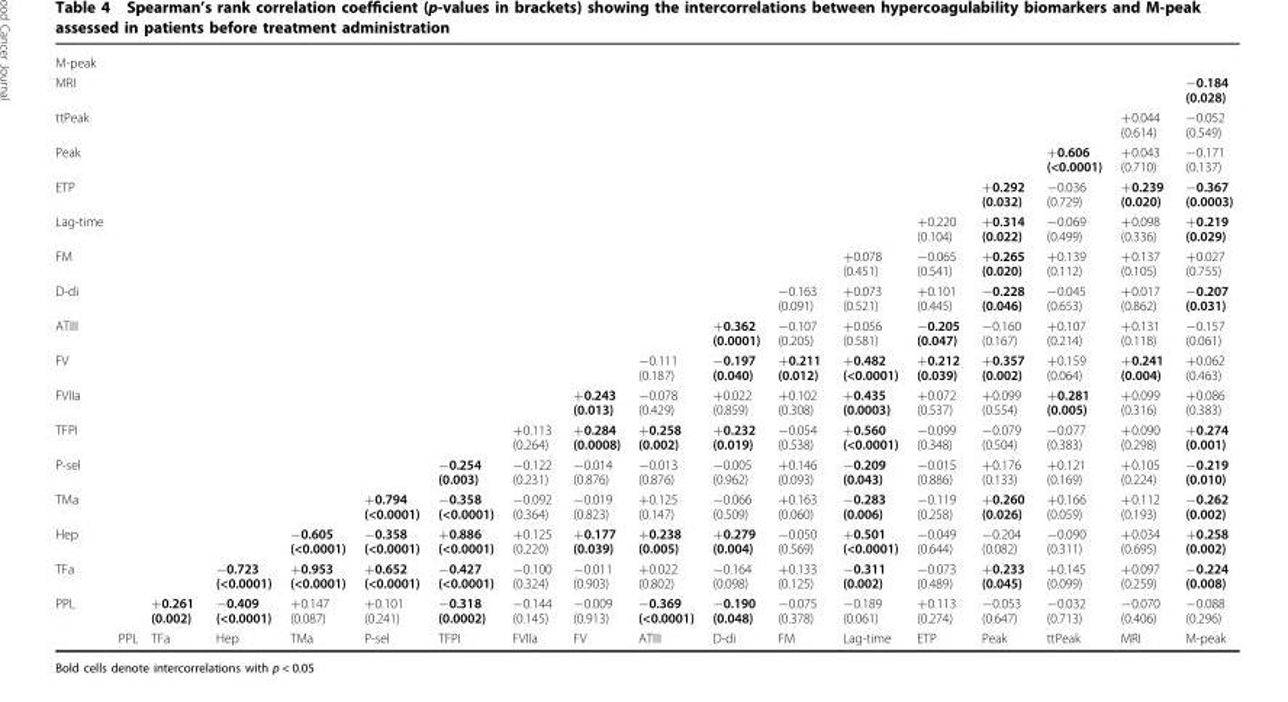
<table><tbody><tr><td colspan="18">M-peak</td></tr><tr><td>MRI</td><td></td><td></td><td></td><td></td><td></td><td></td><td></td><td></td><td></td><td></td><td></td><td></td><td></td><td></td><td></td><td></td><td>−0.184 (0.028)</td></tr><tr><td>ttPeak</td><td></td><td></td><td></td><td></td><td></td><td></td><td></td><td></td><td></td><td></td><td></td><td></td><td></td><td></td><td></td><td>+0.044 (0.614)</td><td>−0.052 (0.549)</td></tr><tr><td>Peak</td><td></td><td></td><td></td><td></td><td></td><td></td><td></td><td></td><td></td><td></td><td></td><td></td><td></td><td></td><td>+0.606 (&lt;0.0001)</td><td>+0.043 (0.710)</td><td>−0.171 (0.137)</td></tr><tr><td>ETP</td><td></td><td></td><td></td><td></td><td></td><td></td><td></td><td></td><td></td><td></td><td></td><td></td><td></td><td>+0.292 (0.032)</td><td>−0.036 (0.729)</td><td>+0.239 (0.020)</td><td>−0.367 (0.0003)</td></tr><tr><td>Lag-time</td><td></td><td></td><td></td><td></td><td></td><td></td><td></td><td></td><td></td><td></td><td></td><td></td><td>+0.220 (0.104)</td><td>+0.314 (0.022)</td><td>−0.069 (0.499)</td><td>+0.098 (0.336)</td><td>+0.219 (0.029)</td></tr><tr><td>FM</td><td></td><td></td><td></td><td></td><td></td><td></td><td></td><td></td><td></td><td></td><td></td><td>+0.078 (0.451)</td><td>−0.065 (0.541)</td><td>+0.265 (0.020)</td><td>+0.139 (0.112)</td><td>+0.137 (0.105)</td><td>+0.027 (0.755)</td></tr><tr><td>D-di</td><td></td><td></td><td></td><td></td><td></td><td></td><td></td><td></td><td></td><td></td><td>−0.163 (0.091)</td><td>+0.073 (0.521)</td><td>+0.101 (0.445)</td><td>−0.228 (0.046)</td><td>−0.045 (0.653)</td><td>+0.017 (0.862)</td><td>−0.207 (0.031)</td></tr><tr><td>ATIII</td><td></td><td></td><td></td><td></td><td></td><td></td><td></td><td></td><td></td><td>+0.362 (0.0001)</td><td>−0.107 (0.205)</td><td>+0.056 (0.581)</td><td>−0.205 (0.047)</td><td>−0.160 (0.167)</td><td>+0.107 (0.214)</td><td>+0.131 (0.118)</td><td>−0.157 (0.061)</td></tr><tr><td>FV</td><td></td><td></td><td></td><td></td><td></td><td></td><td></td><td></td><td>−0.111 (0.187)</td><td>−0.197 (0.040)</td><td>+0.211 (0.012)</td><td>+0.482 (&lt;0.0001)</td><td>+0.212 (0.039)</td><td>+0.357 (0.002)</td><td>+0.159 (0.064)</td><td>+0.241 (0.004)</td><td>+0.062 (0.463)</td></tr><tr><td>FVIIa</td><td></td><td></td><td></td><td></td><td></td><td></td><td></td><td>+0.243 (0.013)</td><td>−0.078 (0.429)</td><td>+0.022 (0.859)</td><td>+0.102 (0.308)</td><td>+0.435 (0.0003)</td><td>+0.072 (0.537)</td><td>+0.099 (0.554)</td><td>+0.281 (0.005)</td><td>+0.099 (0.316)</td><td>+0.086 (0.383)</td></tr><tr><td>TFPI</td><td></td><td></td><td></td><td></td><td></td><td></td><td>+0.113 (0.264)</td><td>+0.284 (0.0008)</td><td>+0.258 (0.002)</td><td>+0.232 (0.019)</td><td>−0.054 (0.538)</td><td>+0.560 (&lt;0.0001)</td><td>−0.099 (0.348)</td><td>−0.079 (0.504)</td><td>−0.077 (0.383)</td><td>+0.090 (0.298)</td><td>+0.274 (0.001)</td></tr><tr><td>P-sel</td><td></td><td></td><td></td><td></td><td></td><td>−0.254 (0.003)</td><td>−0.122 (0.231)</td><td>−0.014 (0.876)</td><td>−0.013 (0.876)</td><td>−0.005 (0.962)</td><td>+0.146 (0.093)</td><td>−0.209 (0.043)</td><td>−0.015 (0.886)</td><td>+0.176 (0.133)</td><td>+0.121 (0.169)</td><td>+0.105 (0.224)</td><td>−0.219 (0.010)</td></tr><tr><td>TMa</td><td></td><td></td><td></td><td></td><td>+0.794 (&lt;0.0001)</td><td>−0.358 (&lt;0.0001)</td><td>−0.092 (0.364)</td><td>−0.019 (0.823)</td><td>+0.125 (0.147)</td><td>−0.066 (0.509)</td><td>+0.163 (0.060)</td><td>−0.283 (0.006)</td><td>−0.119 (0.258)</td><td>+0.260 (0.026)</td><td>+0.166 (0.059)</td><td>+0.112 (0.193)</td><td>−0.262 (0.002)</td></tr><tr><td>Hep</td><td></td><td></td><td></td><td>−0.605 (&lt;0.0001)</td><td>−0.358 (&lt;0.0001)</td><td>+0.886 (&lt;0.0001)</td><td>+0.125 (0.220)</td><td>+0.177 (0.039)</td><td>+0.238 (0.005)</td><td>+0.279 (0.004)</td><td>−0.050 (0.569)</td><td>+0.501 (&lt;0.0001)</td><td>−0.049 (0.644)</td><td>−0.204 (0.082)</td><td>−0.090 (0.311)</td><td>+0.034 (0.695)</td><td>+0.258 (0.002)</td></tr><tr><td>TFa</td><td></td><td></td><td>−0.723 (&lt;0.0001)</td><td>+0.953 (&lt;0.0001)</td><td>+0.652 (&lt;0.0001)</td><td>−0.427 (&lt;0.0001)</td><td>−0.100 (0.324)</td><td>−0.011 (0.903)</td><td>+0.022 (0.802)</td><td>−0.164 (0.098)</td><td>+0.133 (0.125)</td><td>−0.311 (0.002)</td><td>−0.073 (0.489)</td><td>+0.233 (0.045)</td><td>+0.145 (0.099)</td><td>+0.097 (0.259)</td><td>−0.224 (0.008)</td></tr><tr><td rowspan="2">PPL</td><td></td><td>+0.261 (0.002)</td><td>−0.409 (&lt;0.0001)</td><td>+0.147 (0.087)</td><td>+0.101 (0.241)</td><td>−0.318 (0.0002)</td><td>−0.144 (0.145)</td><td>−0.009 (0.913)</td><td>−0.369 (&lt;0.0001)</td><td>−0.190 (0.048)</td><td>−0.075 (0.378)</td><td>−0.189 (0.061)</td><td>+0.113 (0.274)</td><td>−0.053 (0.647)</td><td>−0.032 (0.713)</td><td>−0.070 (0.406)</td><td>−0.088 (0.296)</td></tr><tr><td>PPL</td><td>TFa</td><td>Hep</td><td>TMa</td><td>P-sel</td><td>TFPI</td><td>FVIIa</td><td>FV</td><td>ATIII</td><td>D-di</td><td>FM</td><td>Lag-time</td><td>ETP</td><td>Peak</td><td>ttPeak</td><td>MRI</td><td>M-peak</td></tr></tbody></table>